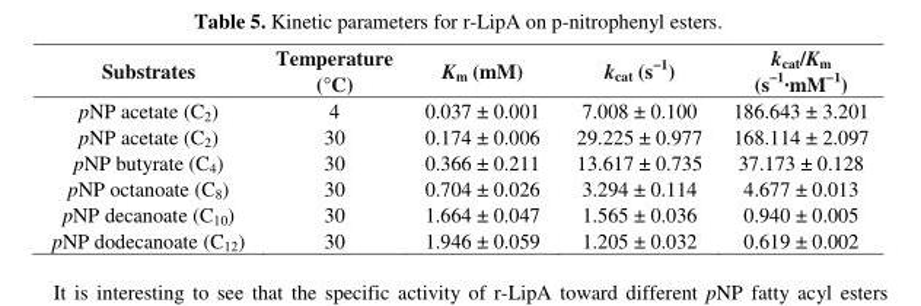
<table><thead><tr><td>Substrates</td><td>Temperature (°C)</td><td>K<sub>m</sub> (mM)</td><td>k<sub>cat</sub> (s<sup>−1</sup>)</td><td>k<sub>cat</sub>/K<sub>m</sub> (s<sup>−1</sup>·mM<sup>−1</sup>)</td></tr></thead><tbody><tr><td>pNP acetate (C<sub>2</sub>)</td><td>4</td><td>0.037 ± 0.001</td><td>7.008 ± 0.100</td><td>186.643 ± 3.201</td></tr><tr><td>pNP acetate (C<sub>2</sub>)</td><td>30</td><td>0.174 ± 0.006</td><td>29.225 ± 0.977</td><td>168.114 ± 2.097</td></tr><tr><td>pNP butyrate (C<sub>4</sub>)</td><td>30</td><td>0.366 ± 0.211</td><td>13.617 ± 0.735</td><td>37.173 ± 0.128</td></tr><tr><td>pNP octanoate (C<sub>8</sub>)</td><td>30</td><td>0.704 ± 0.026</td><td>3.294 ± 0.114</td><td>4.677 ± 0.013</td></tr><tr><td>pNP decanoate (C<sub>10</sub>)</td><td>30</td><td>1.664 ± 0.047</td><td>1.565 ± 0.036</td><td>0.940 ± 0.005</td></tr><tr><td>pNP dodecanoate (C<sub>12</sub>)</td><td>30</td><td>1.946 ± 0.059</td><td>1.205 ± 0.032</td><td>0.619 ± 0.002</td></tr></tbody></table>